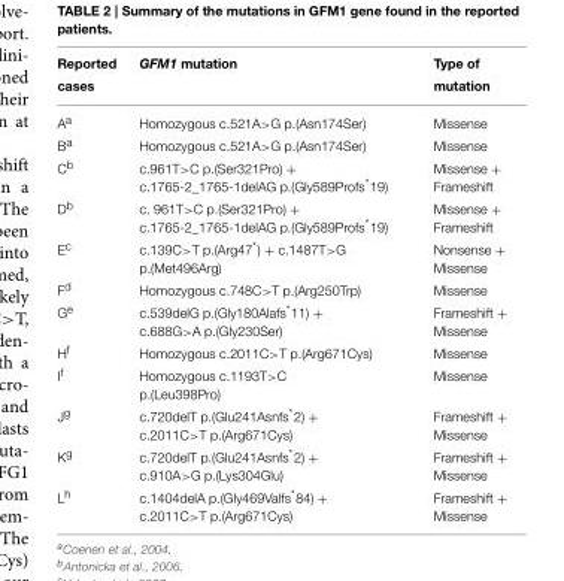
<table><thead><tr><td>Reported cases</td><td>GFM1 mutation</td><td>Type of mutation</td></tr></thead><tbody><tr><td>A<sup>a</sup></td><td>Homozygous c.521A&gt;G p.(Asn174Ser)</td><td>Missense</td></tr><tr><td>B<sup>a</sup></td><td>Homozygous c.521A&gt;G p.(Asn174Ser)</td><td>Missense</td></tr><tr><td>C<sup>b</sup></td><td>c.961T&gt;C p.(Ser321Pro) + c.1765-2_1765-1delAG p.(Gly589Profs*19)</td><td>Missense + Frameshift</td></tr><tr><td>D<sup>b</sup></td><td>c. 961T&gt;C p.(Ser321Pro) + c.1765-2_1765-1delAG p.(Gly589Profs*19)</td><td>Missense + Frameshift</td></tr><tr><td>E<sup>c</sup></td><td>c.139C&gt;T p.(Arg47*) + c.1487T&gt;G p.(Met496Arg)</td><td>Nonsense + Missense</td></tr><tr><td>F<sup>d</sup></td><td>Homozygous c.748C&gt;T p.(Arg250Trp)</td><td>Missense</td></tr><tr><td>G<sup>e</sup></td><td>c.539delG p.(Gly180Alafs*11) + c.688G&gt;A p.(Gly230Ser)</td><td>Frameshift + Missense</td></tr><tr><td>H<sup>f</sup></td><td>Homozygous c.2011C&gt;T p.(Arg671Cys)</td><td>Missense</td></tr><tr><td>I<sup>f</sup></td><td>Homozygous c.1193T&gt;C p.(Leu398Pro)</td><td>Missense</td></tr><tr><td>J<sup>g</sup></td><td>c.720delT p.(Glu241Asnfs*2) + c.2011C&gt;T p.(Arg671Cys)</td><td>Frameshift + Missense</td></tr><tr><td>K<sup>g</sup></td><td>c.720delT p.(Glu241Asnfs*2) + c.910A&gt;G p.(Lys304Glu)</td><td>Frameshift + Missense</td></tr><tr><td>L<sup>h</sup></td><td>c.1404delA p.(Gly469Valfs*84) + c.2011C&gt;T p.(Arg671Cys)</td><td>Frameshift + Missense</td></tr></tbody></table>